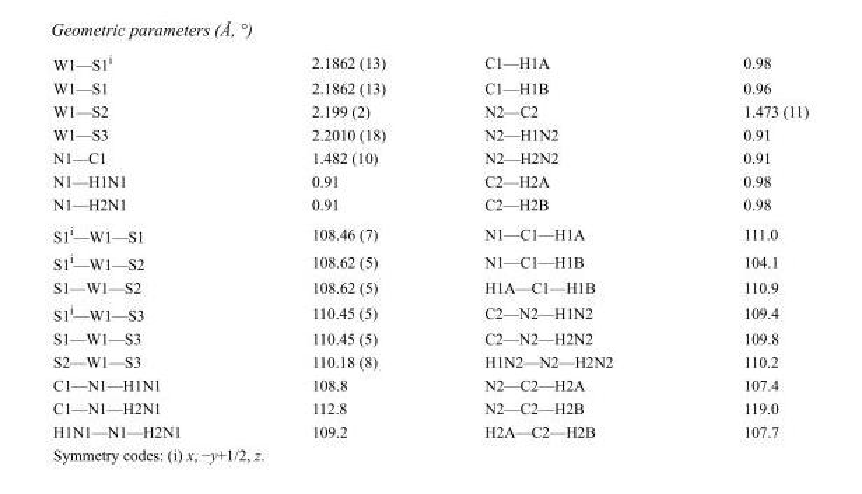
<table><tbody><tr><td>W1—S1<sup>i</sup></td><td>2.1862 (13)</td><td>C1—H1A</td><td>0.98</td></tr><tr><td>W1—S1</td><td>2.1862 (13)</td><td>C1—H1B</td><td>0.96</td></tr><tr><td>W1—S2</td><td>2.199 (2)</td><td>N2—C2</td><td>1.473 (11)</td></tr><tr><td>W1—S3</td><td>2.2010 (18)</td><td>N2—H1N2</td><td>0.91</td></tr><tr><td>N1—C1</td><td>1.482 (10)</td><td>N2—H2N2</td><td>0.91</td></tr><tr><td>N1—H1N1</td><td>0.91</td><td>C2—H2A</td><td>0.98</td></tr><tr><td>N1—H2N1</td><td>0.91</td><td>C2—H2B</td><td>0.98</td></tr><tr><td>S1<sup>i</sup>—W1—S1</td><td>108.46 (7)</td><td>N1—C1—H1A</td><td>111.0</td></tr><tr><td>S1<sup>i</sup>—W1—S2</td><td>108.62 (5)</td><td>N1—C1—H1B</td><td>104.1</td></tr><tr><td>S1—W1—S2</td><td>108.62 (5)</td><td>H1A—C1—H1B</td><td>110.9</td></tr><tr><td>S1<sup>i</sup>—W1—S3</td><td>110.45 (5)</td><td>C2—N2—H1N2</td><td>109.4</td></tr><tr><td>S1—W1—S3</td><td>110.45 (5)</td><td>C2—N2—H2N2</td><td>109.8</td></tr><tr><td>S2—W1—S3</td><td>110.18 (8)</td><td>H1N2—N2—H2N2</td><td>110.2</td></tr><tr><td>C1—N1—H1N1</td><td>108.8</td><td>N2—C2—H2A</td><td>107.4</td></tr><tr><td>C1—N1—H2N1</td><td>112.8</td><td>N2—C2—H2B</td><td>119.0</td></tr><tr><td>H1N1—N1—H2N1</td><td>109.2</td><td>H2A—C2—H2B</td><td>107.7</td></tr></tbody></table>